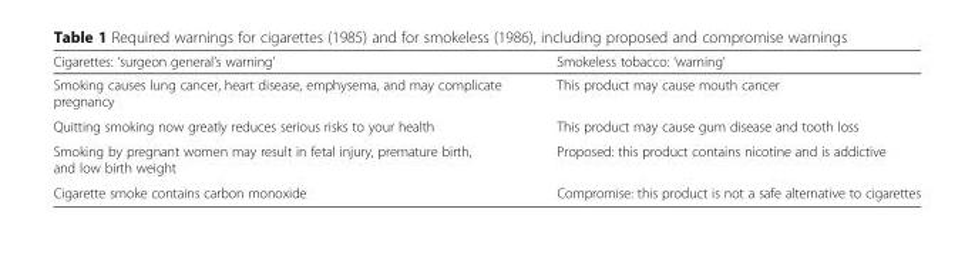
<table><thead><tr><td>Cigarettes: ‘surgeon general’s warning’</td><td>Smokeless tobacco: ‘warning’</td></tr></thead><tbody><tr><td>Smoking causes lung cancer, heart disease, emphysema, and may complicate pregnancy</td><td>This product may cause mouth cancer</td></tr><tr><td>Quitting smoking now greatly reduces serious risks to your health</td><td>This product may cause gum disease and tooth loss</td></tr><tr><td>Smoking by pregnant women may result in fetal injury, premature birth, and low birth weight</td><td>Proposed: this product contains nicotine and is addictive</td></tr><tr><td>Cigarette smoke contains carbon monoxide</td><td>Compromise: this product is not a safe alternative to cigarettes</td></tr></tbody></table>